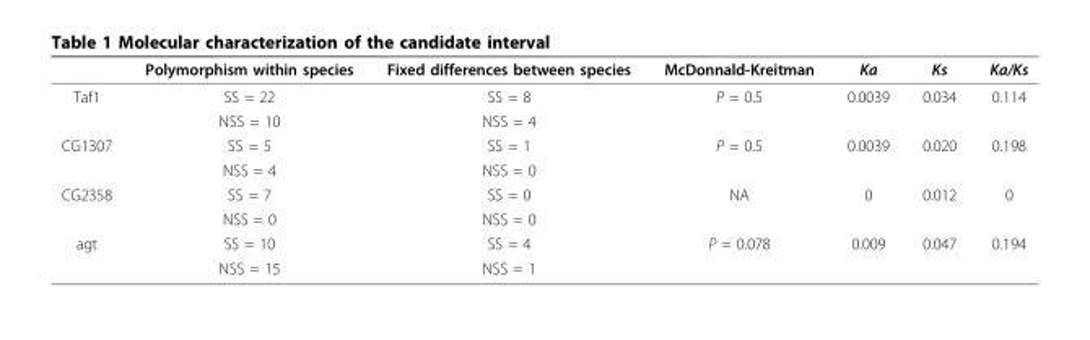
<table><thead><tr><td></td><td>Polymorphism within species</td><td>Fixed differences between species</td><td>McDonnald-Kreitman</td><td>Ka</td><td>Ks</td><td>Ka/Ks</td></tr></thead><tbody><tr><td rowspan="2">Taf1</td><td>SS = 22</td><td>SS = 8</td><td>P = 0.5</td><td>0.0039</td><td>0.034</td><td>0.114</td></tr><tr><td>NSS = 10</td><td>NSS = 4</td><td></td><td></td><td></td><td></td></tr><tr><td rowspan="2">CG1307</td><td>SS = 5</td><td>SS = 1</td><td>P = 0.5</td><td>0.0039</td><td>0.020</td><td>0.198</td></tr><tr><td>NSS = 4</td><td>NSS = 0</td><td></td><td></td><td></td><td></td></tr><tr><td rowspan="2">CG2358</td><td>SS = 7</td><td>SS = 0</td><td>NA</td><td>0</td><td>0.012</td><td>0</td></tr><tr><td>NSS = 0</td><td>NSS = 0</td><td></td><td></td><td></td><td></td></tr><tr><td rowspan="2">agt</td><td>SS = 10</td><td>SS = 4</td><td>P = 0.078</td><td>0.009</td><td>0.047</td><td>0.194</td></tr><tr><td>NSS = 15</td><td>NSS = 1</td><td></td><td></td><td></td><td></td></tr></tbody></table>